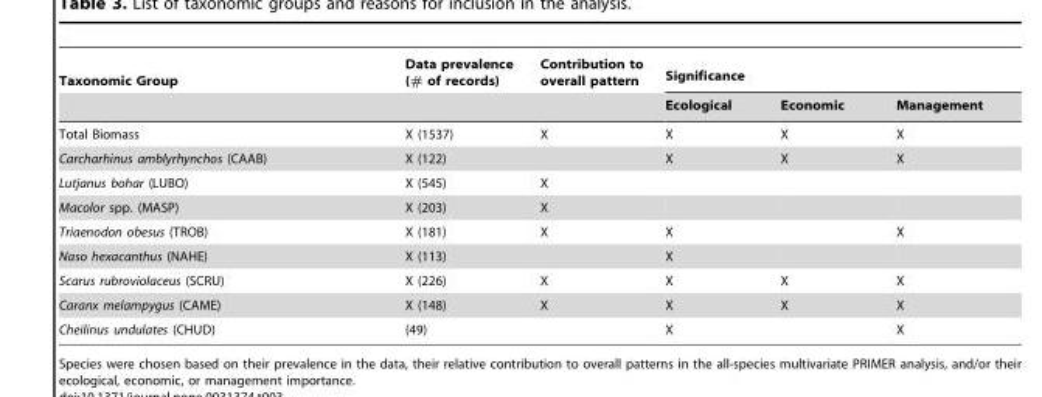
<table><thead><tr><td rowspan="2">Taxonomic Group</td><td rowspan="2">Data prevalence (# of records)</td><td rowspan="2">Contribution to overall pattern</td><td colspan="3">Significance</td></tr><tr><td>Ecological</td><td>Economic</td><td>Management</td></tr></thead><tbody><tr><td>Total Biomass</td><td>X (1537)</td><td>X</td><td>X</td><td>X</td><td>X</td></tr><tr><td>Carcharhinus amblyrhynchos (CAAB)</td><td>X (122)</td><td></td><td>X</td><td>X</td><td>X</td></tr><tr><td>Lutjanus bohar (LUBO)</td><td>X (545)</td><td>X</td><td></td><td></td><td></td></tr><tr><td>Macolor spp. (MASP)</td><td>X (203)</td><td>X</td><td></td><td></td><td></td></tr><tr><td>Triaenodon obesus (TROB)</td><td>X (181)</td><td>X</td><td>X</td><td></td><td>X</td></tr><tr><td>Naso hexacanthus (NAHE)</td><td>X (113)</td><td></td><td>X</td><td></td><td></td></tr><tr><td>Scarus rubroviolaceus (SCRU)</td><td>X (226)</td><td>X</td><td>X</td><td>X</td><td>X</td></tr><tr><td>Caranx melampygus (CAME)</td><td>X (148)</td><td>X</td><td>X</td><td>X</td><td>X</td></tr><tr><td>Cheilinus undulates (CHUD)</td><td>(49)</td><td></td><td>X</td><td></td><td>X</td></tr></tbody></table>